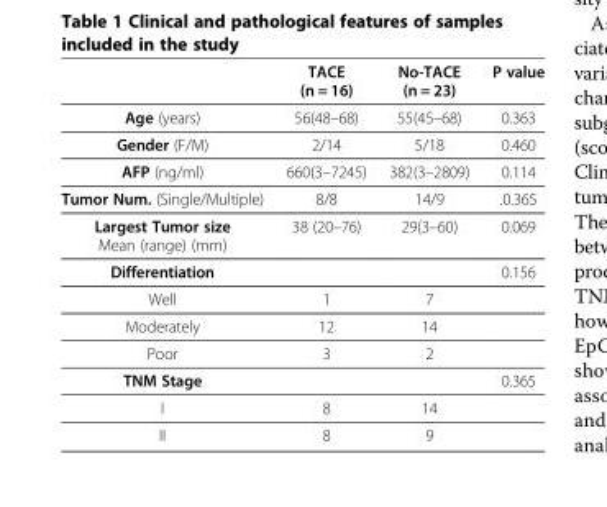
<table><thead><tr><td></td><td>TACE (n = 16)</td><td>No-TACE (n = 23)</td><td>P value</td></tr></thead><tbody><tr><td>Age (years)</td><td>56(48–68)</td><td>55(45–68)</td><td>0.363</td></tr><tr><td>Gender (F/M)</td><td>2/14</td><td>5/18</td><td>0.460</td></tr><tr><td>AFP (ng/ml)</td><td>660(3–7245)</td><td>382(3–2809)</td><td>0.114</td></tr><tr><td>Tumor Num. (Single/Multiple)</td><td>8/8</td><td>14/9</td><td>.0.365</td></tr><tr><td>Largest Tumor size Mean (range) (mm)</td><td>38 (20–76)</td><td>29(3–60)</td><td>0.069</td></tr><tr><td>Differentiation</td><td></td><td></td><td>0.156</td></tr><tr><td>Well</td><td>1</td><td>7</td><td></td></tr><tr><td>Moderately</td><td>12</td><td>14</td><td></td></tr><tr><td>Poor</td><td>3</td><td>2</td><td></td></tr><tr><td>TNM Stage</td><td></td><td></td><td>0.365</td></tr><tr><td>I</td><td>8</td><td>14</td><td></td></tr><tr><td>II</td><td>8</td><td>9</td><td></td></tr></tbody></table>